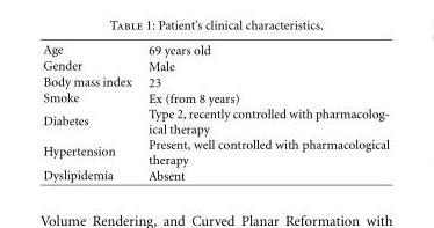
<table><tbody><tr><td>Age</td><td>69 years old</td></tr><tr><td>Gender</td><td>Male</td></tr><tr><td>Body mass index</td><td>23</td></tr><tr><td>Smoke</td><td>Ex (from 8 years)</td></tr><tr><td>Diabetes</td><td>Type 2, recently controlled with pharmacolog- ical therapy</td></tr><tr><td>Hypertension</td><td>Present, well controlled with pharmacological therapy</td></tr><tr><td>Dyslipidemia</td><td>Absent</td></tr></tbody></table>